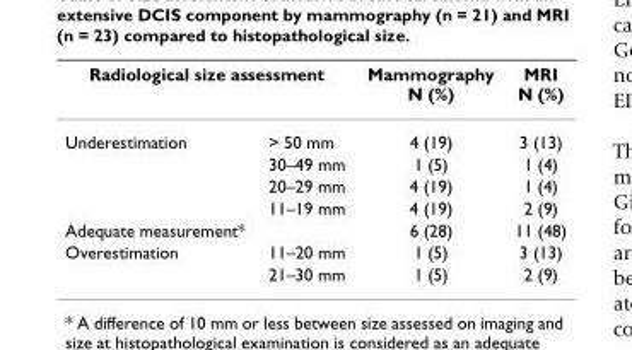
<table><thead><tr><td colspan="2">Radiological size assessment</td><td rowspan="2">Mammography N (%) 4 (19)</td><td rowspan="2">MRI N (%) 3 (13)</td></tr><tr><td>Underestimation</td><td>&gt; 50 mm</td></tr></thead><tbody><tr><td></td><td>30–49 mm</td><td>1 (5)</td><td>1 (4)</td></tr><tr><td></td><td>20–29 mm</td><td>4 (19)</td><td>1 (4)</td></tr><tr><td></td><td>11–19 mm</td><td>4 (19)</td><td>2 (9)</td></tr><tr><td>Adequate measurement*</td><td></td><td>6 (28)</td><td>11 (48)</td></tr><tr><td rowspan="2">Overestimation</td><td>11–20 mm</td><td>1 (5)</td><td>3 (13)</td></tr><tr><td>21–30 mm</td><td>1 (5)</td><td>2 (9)</td></tr></tbody></table>